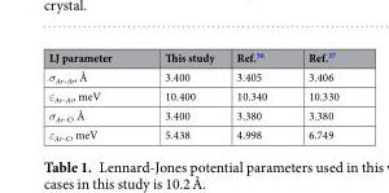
<table><thead><tr><td>LJ parameter</td><td>This study</td><td>Ref.<sup>36</sup></td><td>Ref.<sup>37</sup></td></tr></thead><tbody><tr><td>σ<sub>Ar–Ar</sub>, Å</td><td>3.400</td><td>3.405</td><td>3.406</td></tr><tr><td>ε<sub>Ar–Ar</sub>, meV</td><td>10.400</td><td>10.340</td><td>10.330</td></tr><tr><td>σ<sub>Ar–C</sub>, Å</td><td>3.400</td><td>3.380</td><td>3.380</td></tr><tr><td>ε<sub>Ar–C</sub>, meV</td><td>5.438</td><td>4.998</td><td>6.749</td></tr></tbody></table>